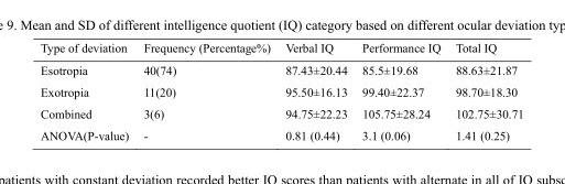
<table><thead><tr><td>Type of deviation</td><td>Frequency (Percentage%)</td><td>Verbal IQ</td><td>Performance IQ</td><td>Total IQ</td></tr></thead><tbody><tr><td>Esotropia</td><td>40(74)</td><td>87.43±20.44</td><td>85.5±19.68</td><td>88.63±21.87</td></tr><tr><td>Exotropia</td><td>11(20)</td><td>95.50±16.13</td><td>99.40±22.37</td><td>98.70±18.30</td></tr><tr><td>Combined</td><td>3(6)</td><td>94.75±22.23</td><td>105.75±28.24</td><td>102.75±30.71</td></tr><tr><td>ANOVA(P-value)</td><td>-</td><td>0.81 (0.44)</td><td>3.1 (0.06)</td><td>1.41 (0.25)</td></tr></tbody></table>